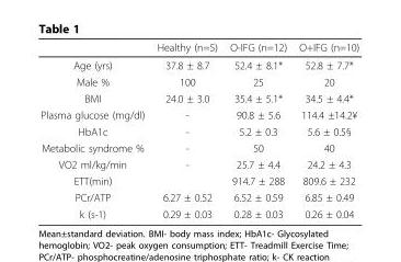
<table><thead><tr><td></td><td>Healthy (n=5)</td><td>O-IFG (n=12)</td><td>O+IFG (n=10)</td></tr></thead><tbody><tr><td>Age (yrs)</td><td>37.8 ± 8.7</td><td>52.4 ± 8.1*</td><td>52.8 ± 7.7*</td></tr><tr><td>Male %</td><td>100</td><td>25</td><td>20</td></tr><tr><td>BMI</td><td>24.0 ± 3.0</td><td>35.4 ± 5.1*</td><td>34.5 ± 4.4*</td></tr><tr><td>Plasma glucose (mg/dl)</td><td>-</td><td>90.8 ± 5.6</td><td>114.4 ±14.2¥</td></tr><tr><td>HbA1c</td><td>-</td><td>5.2 ± 0.3</td><td>5.6 ± 0.5§</td></tr><tr><td>Metabolic syndrome %</td><td>-</td><td>50</td><td>40</td></tr><tr><td>VO2 ml/kg/min</td><td>-</td><td>25.7 ± 4.4</td><td>24.2 ± 4.3</td></tr><tr><td>ETT(min)</td><td></td><td>914.7 ± 288</td><td>809.6 ± 232</td></tr><tr><td>PCr/ATP</td><td>6.27 ± 0.52</td><td>6.52 ± 0.59</td><td>6.85 ± 0.49</td></tr><tr><td>k (s-1)</td><td>0.29 ± 0.03</td><td>0.28 ± 0.03</td><td>0.26 ± 0.04</td></tr></tbody></table>